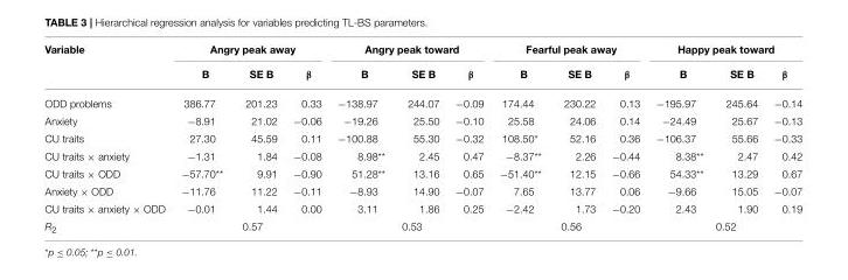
<table><thead><tr><td rowspan="2">Variable</td><td colspan="3">Angry peak away</td><td colspan="3">Angry peak toward</td><td colspan="3">Fearful peak away</td><td colspan="3">Happy peak toward</td></tr><tr><td>B</td><td>SE B</td><td>β</td><td>B</td><td>SE B</td><td>β</td><td>B</td><td>SE B</td><td>β</td><td>B</td><td>SE B</td><td>β</td></tr></thead><tbody><tr><td>ODD problems</td><td>386.77</td><td>201.23</td><td>0.33</td><td>−138.97</td><td>244.07</td><td>−0.09</td><td>174.44</td><td>230.22</td><td>0.13</td><td>−195.97</td><td>245.64</td><td>−0.14</td></tr><tr><td>Anxiety</td><td>−8.91</td><td>21.02</td><td>−0.06</td><td>−19.26</td><td>25.50</td><td>−0.10</td><td>25.58</td><td>24.06</td><td>0.14</td><td>−24.49</td><td>25.67</td><td>−0.13</td></tr><tr><td>CU traits</td><td>27.30</td><td>45.59</td><td>0.11</td><td>−100.88</td><td>55.30</td><td>−0.32</td><td>108.50*</td><td>52.16</td><td>0.36</td><td>−106.37</td><td>55.66</td><td>−0.33</td></tr><tr><td>CU traits × anxiety</td><td>−1.31</td><td>1.84</td><td>−0.08</td><td>8.98**</td><td>2.45</td><td>0.47</td><td>−8.37**</td><td>2.26</td><td>−0.44</td><td>8.38**</td><td>2.47</td><td>0.42</td></tr><tr><td>CU traits × ODD</td><td>−57.70**</td><td>9.91</td><td>−0.90</td><td>51.28**</td><td>13.16</td><td>0.65</td><td>−51.40**</td><td>12.15</td><td>−0.66</td><td>54.33**</td><td>13.29</td><td>0.67</td></tr><tr><td>Anxiety × ODD</td><td>−11.76</td><td>11.22</td><td>−0.11</td><td>−8.93</td><td>14.90</td><td>−0.07</td><td>7.65</td><td>13.77</td><td>0.06</td><td>−9.66</td><td>15.05</td><td>−0.07</td></tr><tr><td>CU traits × anxiety × ODD</td><td>−0.01</td><td>1.44</td><td>0.00</td><td>3.11</td><td>1.86</td><td>0.25</td><td>−2.42</td><td>1.73</td><td>−0.20</td><td>2.43</td><td>1.90</td><td>0.19</td></tr><tr><td>R<sub>2</sub></td><td colspan="3">0.57</td><td colspan="3">0.53</td><td colspan="3">0.56</td><td colspan="3">0.52</td></tr></tbody></table>